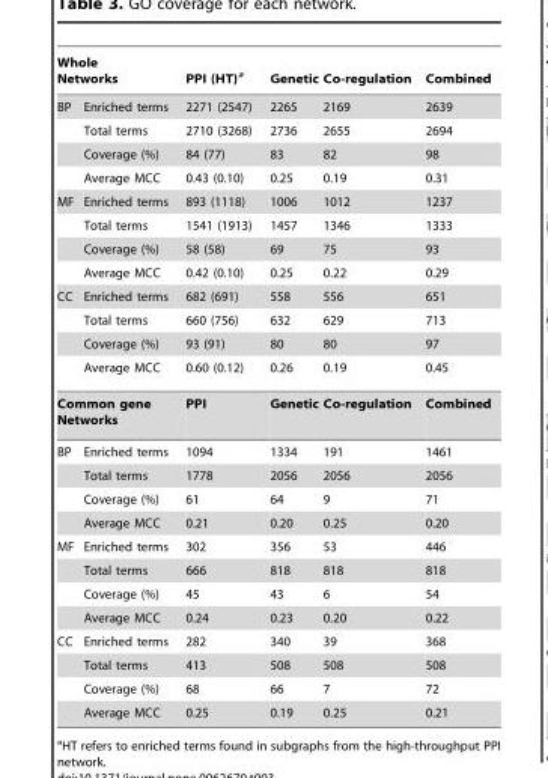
<table><thead><tr><td colspan="2">Whole Networks</td><td rowspan="2">PPI (HT)<sup>a</sup> 2271 (2547)</td><td rowspan="2">Genetic 2265</td><td rowspan="2">Co-regulation 2169</td><td rowspan="2">Combined 2639</td></tr><tr><td>BP</td><td>Enriched terms</td></tr></thead><tbody><tr><td></td><td>Total terms</td><td>2710 (3268)</td><td>2736</td><td>2655</td><td>2694</td></tr><tr><td></td><td>Coverage (%)</td><td>84 (77)</td><td>83</td><td>82</td><td>98</td></tr><tr><td></td><td>Average MCC</td><td>0.43 (0.10)</td><td>0.25</td><td>0.19</td><td>0.31</td></tr><tr><td rowspan="4">MF</td><td>Enriched terms</td><td>893 (1118)</td><td>1006</td><td>1012</td><td>1237</td></tr><tr><td>Total terms</td><td>1541 (1913)</td><td>1457</td><td>1346</td><td>1333</td></tr><tr><td>Coverage (%)</td><td>58 (58)</td><td>69</td><td>75</td><td>93</td></tr><tr><td>Average MCC</td><td>0.42 (0.10)</td><td>0.25</td><td>0.22</td><td>0.29</td></tr><tr><td rowspan="4">CC</td><td>Enriched terms</td><td>682 (691)</td><td>558</td><td>556</td><td>651</td></tr><tr><td>Total terms</td><td>660 (756)</td><td>632</td><td>629</td><td>713</td></tr><tr><td>Coverage (%)</td><td>93 (91)</td><td>80</td><td>80</td><td>97</td></tr><tr><td>Average MCC</td><td>0.60 (0.12)</td><td>0.26</td><td>0.19</td><td>0.45</td></tr><tr><td colspan="2">Common gene Networks</td><td>PPI</td><td>Genetic</td><td>Co-regulation</td><td>Combined</td></tr><tr><td rowspan="4">BP</td><td>Enriched terms</td><td>1094</td><td>1334</td><td>191</td><td>1461</td></tr><tr><td>Total terms</td><td>1778</td><td>2056</td><td>2056</td><td>2056</td></tr><tr><td>Coverage (%)</td><td>61</td><td>64</td><td>9</td><td>71</td></tr><tr><td>Average MCC</td><td>0.21</td><td>0.20</td><td>0.25</td><td>0.20</td></tr><tr><td rowspan="4">MF</td><td>Enriched terms</td><td>302</td><td>356</td><td>53</td><td>446</td></tr><tr><td>Total terms</td><td>666</td><td>818</td><td>818</td><td>818</td></tr><tr><td>Coverage (%)</td><td>45</td><td>43</td><td>6</td><td>54</td></tr><tr><td>Average MCC</td><td>0.24</td><td>0.23</td><td>0.20</td><td>0.22</td></tr><tr><td rowspan="4">CC</td><td>Enriched terms</td><td>282</td><td>340</td><td>39</td><td>368</td></tr><tr><td>Total terms</td><td>413</td><td>508</td><td>508</td><td>508</td></tr><tr><td>Coverage (%)</td><td>68</td><td>66</td><td>7</td><td>72</td></tr><tr><td>Average MCC</td><td>0.25</td><td>0.19</td><td>0.25</td><td>0.21</td></tr></tbody></table>